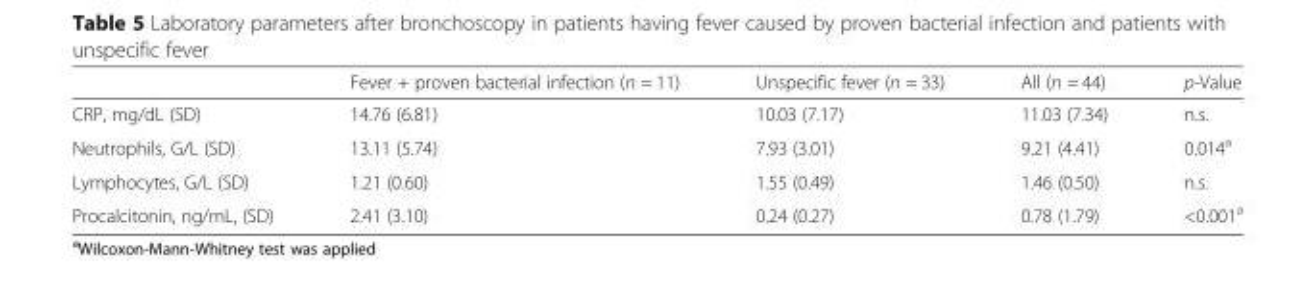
<table><thead><tr><td></td><td>Fever + proven bacterial infection (n = 11)</td><td>Unspecific fever (n = 33)</td><td>All (n = 44)</td><td>p-Value</td></tr></thead><tbody><tr><td>CRP, mg/dL (SD)</td><td>14.76 (6.81)</td><td>10.03 (7.17)</td><td>11.03 (7.34)</td><td>n.s.</td></tr><tr><td>Neutrophils, G/L (SD)</td><td>13.11 (5.74)</td><td>7.93 (3.01)</td><td>9.21 (4.41)</td><td>0.014<sup>a</sup></td></tr><tr><td>Lymphocytes, G/L (SD)</td><td>1.21 (0.60)</td><td>1.55 (0.49)</td><td>1.46 (0.50)</td><td>n.s.</td></tr><tr><td>Procalcitonin, ng/mL, (SD)</td><td>2.41 (3.10)</td><td>0.24 (0.27)</td><td>0.78 (1.79)</td><td>&lt;0.001<sup>a</sup></td></tr></tbody></table>